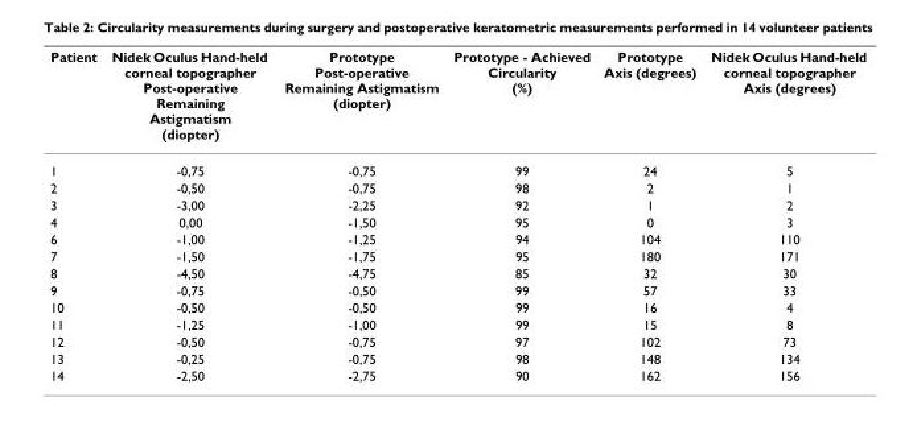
<table><thead><tr><td>Patient</td><td>Nidek Oculus Hand-held corneal topographer Post-operative Remaining Astigmatism (diopter)</td><td>Prototype Post-operative Remaining Astigmatism (diopter)</td><td>Prototype - Achieved Circularity (%)</td><td>Prototype Axis (degrees)</td><td>Nidek Oculus Hand-held corneal topographer Axis (degrees)</td></tr></thead><tbody><tr><td>1</td><td>-0,75</td><td>-0,75</td><td>99</td><td>24</td><td>5</td></tr><tr><td>2</td><td>-0,50</td><td>-0,75</td><td>98</td><td>2</td><td>1</td></tr><tr><td>3</td><td>-3,00</td><td>-2,25</td><td>92</td><td>1</td><td>2</td></tr><tr><td>4</td><td>0,00</td><td>-1,50</td><td>95</td><td>0</td><td>3</td></tr><tr><td>6</td><td>-1,00</td><td>-1,25</td><td>94</td><td>104</td><td>110</td></tr><tr><td>7</td><td>-1,50</td><td>-1,75</td><td>95</td><td>180</td><td>171</td></tr><tr><td>8</td><td>-4,50</td><td>-4,75</td><td>85</td><td>32</td><td>30</td></tr><tr><td>9</td><td>-0,75</td><td>-0,50</td><td>99</td><td>57</td><td>33</td></tr><tr><td>10</td><td>-0,50</td><td>-0,50</td><td>99</td><td>16</td><td>4</td></tr><tr><td>11</td><td>-1,25</td><td>-1,00</td><td>99</td><td>15</td><td>8</td></tr><tr><td>12</td><td>-0,50</td><td>-0,75</td><td>97</td><td>102</td><td>73</td></tr><tr><td>13</td><td>-0,25</td><td>-0,75</td><td>98</td><td>148</td><td>134</td></tr><tr><td>14</td><td>-2,50</td><td>-2,75</td><td>90</td><td>162</td><td>156</td></tr></tbody></table>